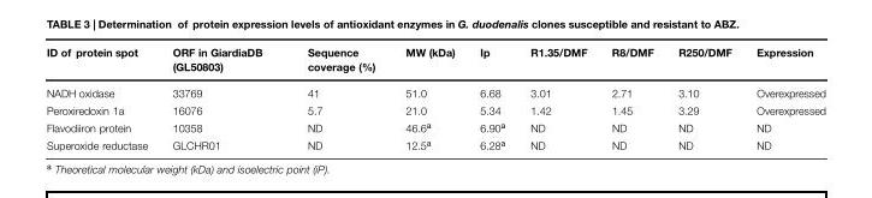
<table><thead><tr><td>ID of protein spot</td><td>ORF in GiardiaDB (GL50803)</td><td>Sequence coverage (%)</td><td>MW (kDa)</td><td>Ip</td><td>R1.35/DMF</td><td>R8/DMF</td><td>R250/DMF</td><td>Expression</td></tr></thead><tbody><tr><td>NADH oxidase</td><td>33769</td><td>41</td><td>51.0</td><td>6.68</td><td>3.01</td><td>2.71</td><td>3.10</td><td>Overexpressed</td></tr><tr><td>Peroxiredoxin 1a</td><td>16076</td><td>5.7</td><td>21.0</td><td>5.34</td><td>1.42</td><td>1.45</td><td>3.29</td><td>Overexpressed</td></tr><tr><td>Flavodiiron protein</td><td>10358</td><td>ND</td><td>46.6<sup>a</sup></td><td>6.90<sup>a</sup></td><td>ND</td><td>ND</td><td>ND</td><td>ND</td></tr><tr><td>Superoxide reductase</td><td>GLCHR01</td><td>ND</td><td>12.5<sup>a</sup></td><td>6.28<sup>a</sup></td><td>ND</td><td>ND</td><td>ND</td><td>ND</td></tr></tbody></table>